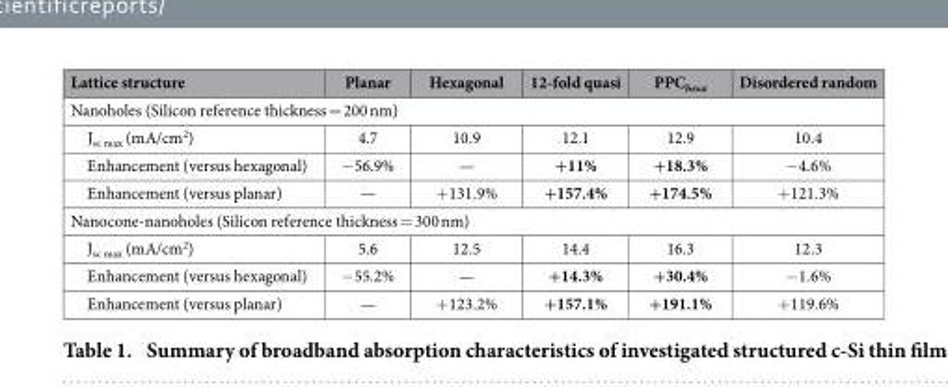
<table><thead><tr><td>Lattice structure</td><td>Planar</td><td>Hexagonal</td><td>12-fold quasi</td><td>PPC<sub>hexa</sub></td><td>Disordered random</td></tr></thead><tbody><tr><td colspan="6">Nanoholes (Silicon reference thickness = 200 nm)</td></tr><tr><td>J<sub>sc max</sub> (mA/cm<sup>2</sup>)</td><td>4.7</td><td>10.9</td><td>12.1</td><td>12.9</td><td>10.4</td></tr><tr><td>Enhancement (versus hexagonal)</td><td>− 56.9%</td><td>—</td><td>+11%</td><td>+18.3%</td><td>− 4.6%</td></tr><tr><td>Enhancement (versus planar)</td><td>—</td><td>+ 131.9%</td><td>+157.4%</td><td>+174.5%</td><td>+ 121.3%</td></tr><tr><td colspan="6">Nanocone-nanoholes (Silicon reference thickness = 300 nm)</td></tr><tr><td>J<sub>sc max</sub> (mA/cm<sup>2</sup>)</td><td>5.6</td><td>12.5</td><td>14.4</td><td>16.3</td><td>12.3</td></tr><tr><td>Enhancement (versus hexagonal)</td><td>− 55.2%</td><td>—</td><td>+14.3%</td><td>+30.4%</td><td>− 1.6%</td></tr><tr><td>Enhancement (versus planar)</td><td>—</td><td>+ 123.2%</td><td>+157.1%</td><td>+191.1%</td><td>+ 119.6%</td></tr></tbody></table>